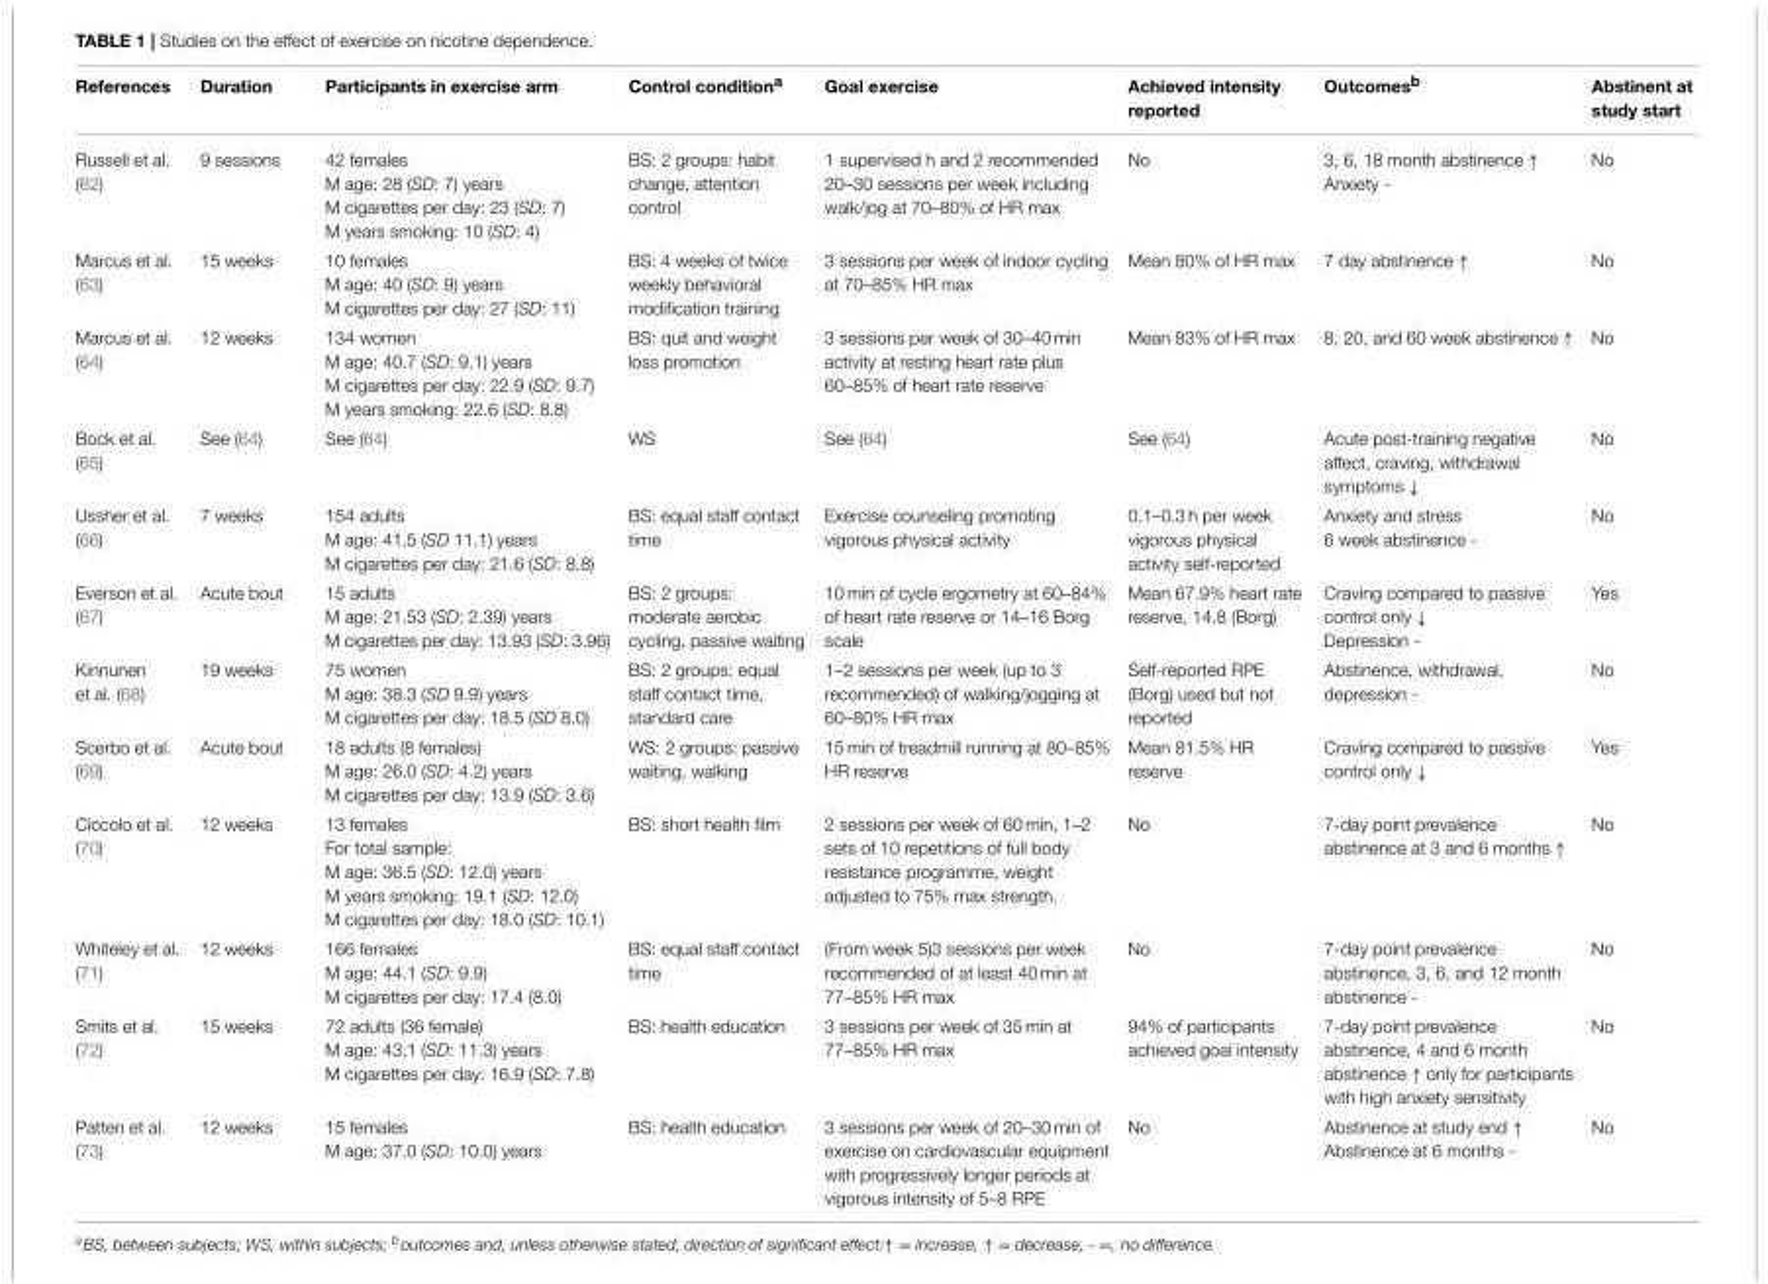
<table><thead><tr><td>References</td><td>Duration</td><td>Participants in exercise arm</td><td>Control condition<sup>a</sup></td><td>Goal exercise</td><td>Achieved intensity reported</td><td>Outcomes<sup>b</sup></td><td>Abstinent at study start</td></tr></thead><tbody><tr><td>Russell et al. (62)</td><td>9 sessions</td><td>42 females M age: 28 (SD: 7) years M cigarettes per day: 23 (SD: 7) M years smoking: 10 (SD: 4)</td><td>BS: 2 groups: habit change, attention control</td><td>1 supervised h and 2 recommended 20–30 sessions per week including walk/jog at 70–80% of HR max</td><td>No</td><td>3, 6, 18 month abstinence ↑ Anxiety -</td><td>No</td></tr><tr><td>Marcus et al. (63)</td><td>15 weeks</td><td>10 females M age: 40 (SD: 9) years M cigarettes per day: 27 (SD: 11)</td><td>BS: 4 weeks of twice weekly behavioral modification training</td><td>3 sessions per week of indoor cycling at 70–85% HR max</td><td>Mean 80% of HR max</td><td>7 day abstinence ↑</td><td>No</td></tr><tr><td>Marcus et al. (64)</td><td>12 weeks</td><td>134 women M age: 40.7 (SD: 9.1) years M cigarettes per day: 22.9 (SD: 9.7) M years smoking: 22.6 (SD: 8.8)</td><td>BS: quit and weight loss promotion</td><td>3 sessions per week of 30–40 min activity at resting heart rate plus 60–85% of heart rate reserve</td><td>Mean 83% of HR max</td><td>8, 20, and 60 week abstinence ↑</td><td>No</td></tr><tr><td>Bock et al. (65)</td><td>See (64)</td><td>See (64)</td><td>WS</td><td>See (64)</td><td>See (64)</td><td>Acute post-training negative affect, craving, withdrawal symptoms ↓</td><td>No</td></tr><tr><td>Ussher et al. (66)</td><td>7 weeks</td><td>154 adults M age: 41.5 (SD 11.1) years M cigarettes per day: 21.6 (SD: 8.8)</td><td>BS: equal staff contact time</td><td>Exercise counseling promoting vigorous physical activity</td><td>0.1–0.3 h per week vigorous physical activity self-reported</td><td>Anxiety and stress 6 week abstinence -</td><td>No</td></tr><tr><td>Everson et al. (67)</td><td>Acute bout</td><td>15 adults M age: 21.53 (SD: 2.39) years M cigarettes per day: 13.93 (SD: 3.96)</td><td>BS: 2 groups: moderate aerobic cycling, passive waiting</td><td>10 min of cycle ergometry at 60–84% of heart rate reserve or 14–16 Borg scale</td><td>Mean 67.9% heart rate reserve, 14.8 (Borg)</td><td>Craving compared to passive control only ↓ Depression -</td><td>Yes</td></tr><tr><td>Kinnunen et al. (68)</td><td>19 weeks</td><td>75 women M age: 38.3 (SD 9.9) years M cigarettes per day: 18.5 (SD 8.0)</td><td>BS: 2 groups: equal staff contact time, standard care</td><td>1–2 sessions per week (up to 3 recommended) of walking/jogging at 60–80% HR max</td><td>Self-reported RPE (Borg) used but not reported</td><td>Abstinence, withdrawal, depression -</td><td>No</td></tr><tr><td>Scerbo et al. (69)</td><td>Acute bout</td><td>18 adults (8 females) M age: 26.0 (SD: 4.2) years M cigarettes per day: 13.9 (SD: 3.6)</td><td>WS: 2 groups: passive waiting, walking</td><td>15 min of treadmill running at 80–85% HR reserve</td><td>Mean 81.5% HR reserve</td><td>Craving compared to passive control only ↓</td><td>Yes</td></tr><tr><td>Ciccolo et al. (70)</td><td>12 weeks</td><td>13 females For total sample: M age: 36.5 (SD: 12.0) years M years smoking: 19.1 (SD: 12.0) M cigarettes per day: 18.0 (SD: 10.1)</td><td>BS: short health film</td><td>2 sessions per week of 60 min, 1–2 sets of 10 repetitions of full body resistance programme, weight adjusted to 75% max strength.</td><td>No</td><td>7-day point prevalence abstinence at 3 and 6 months ↑</td><td>No</td></tr><tr><td>Whiteley et al. (71)</td><td>12 weeks</td><td>166 females M age: 44.1 (SD: 9.9) M cigarettes per day: 17.4 (8.0)</td><td>BS: equal staff contact time</td><td>(From week 5)3 sessions per week recommended of at least 40 min at 77–85% HR max</td><td>No</td><td>7-day point prevalence abstinence, 3, 6, and 12 month abstinence -</td><td>No</td></tr><tr><td>Smits et al. (72)</td><td>15 weeks</td><td>72 adults (36 female) M age: 43.1 (SD: 11.3) years M cigarettes per day: 16.9 (SD: 7.8)</td><td>BS: health education</td><td>3 sessions per week of 35 min at 77–85% HR max</td><td>94% of participants achieved goal intensity</td><td>7-day point prevalence abstinence, 4 and 6 month abstinence ↑ only for participants with high anxiety sensitivity</td><td>No</td></tr><tr><td>Patten et al. (73)</td><td>12 weeks</td><td>15 females M age: 37.0 (SD: 10.0) years</td><td>BS: health education</td><td>3 sessions per week of 20–30 min of exercise on cardiovascular equipment with progressively longer periods at vigorous intensity of 5–8 RPE</td><td>No</td><td>Abstinence at study end ↑ Abstinence at 6 months -</td><td>No</td></tr></tbody></table>